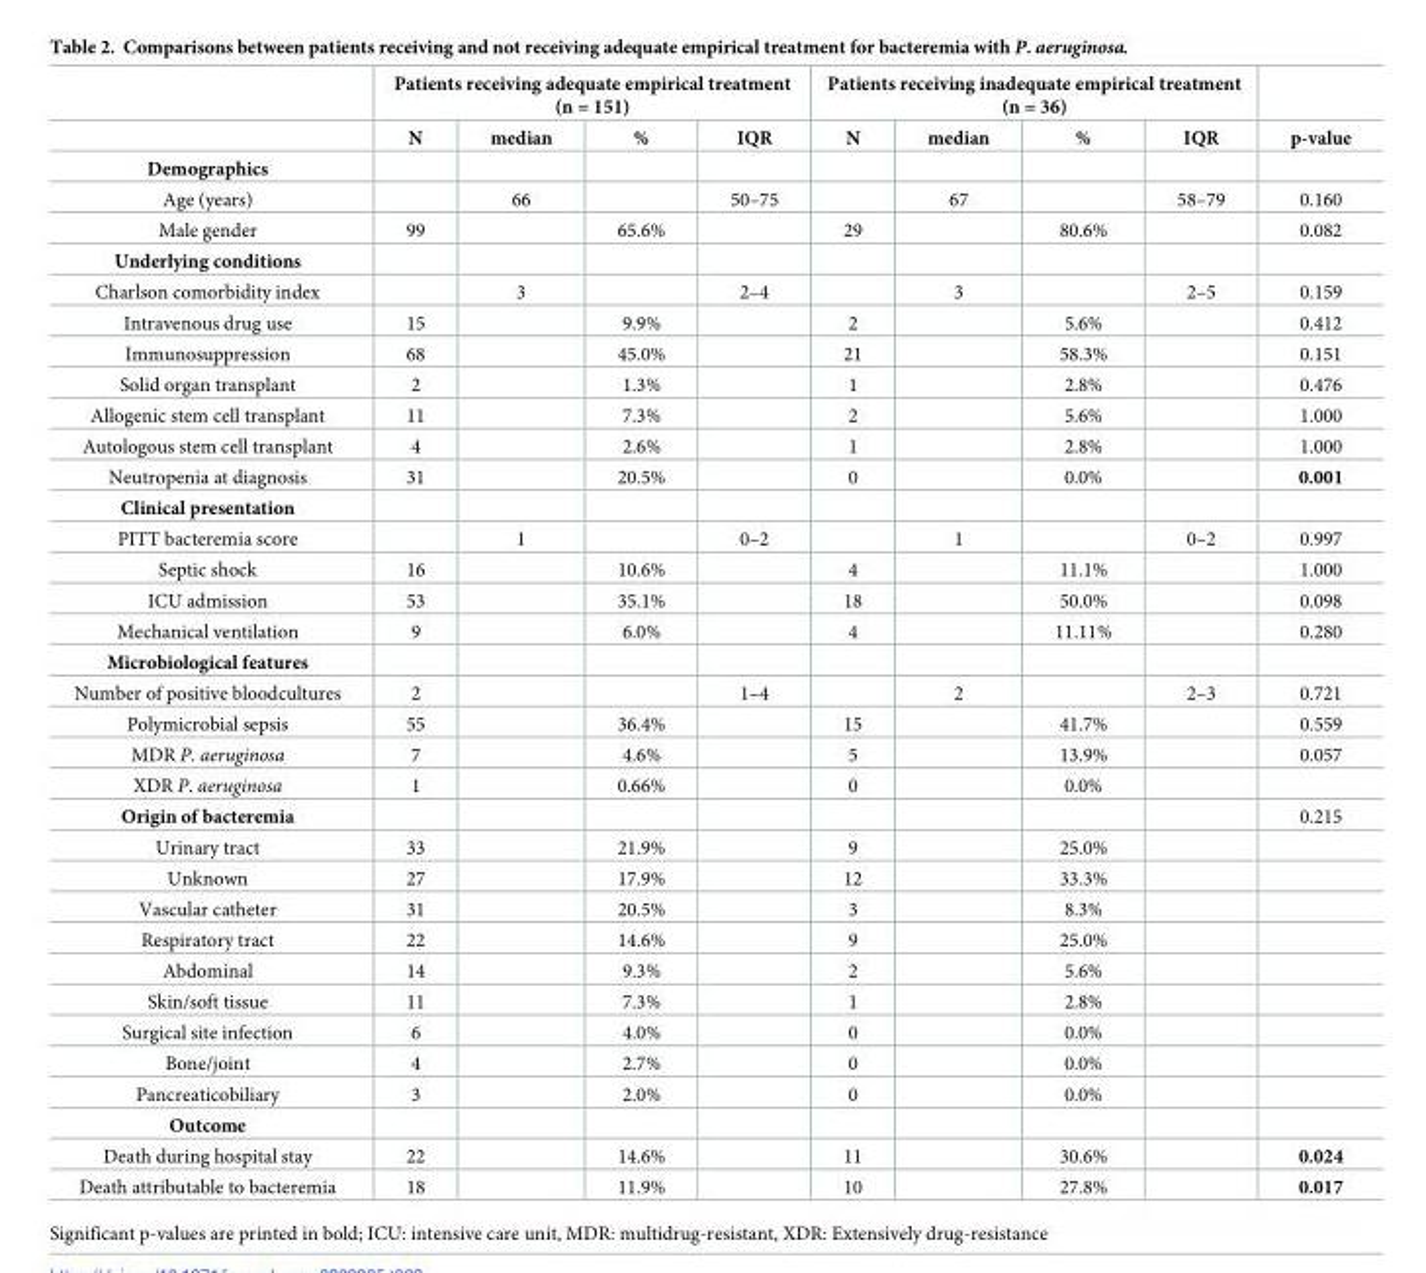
<table><thead><tr><td rowspan="2"></td><td colspan="4">Patients receiving adequate empirical treatment (n = 151)</td><td colspan="4">Patients receiving inadequate empirical treatment (n = 36)</td><td rowspan="2">p-value</td></tr><tr><td>N</td><td>median</td><td>%</td><td>IQR</td><td>N</td><td>median</td><td>%</td><td>IQR</td></tr></thead><tbody><tr><td colspan="10">Demographics</td></tr><tr><td>Age (years)</td><td></td><td>66</td><td></td><td>50–75</td><td></td><td>67</td><td></td><td>58–79</td><td>0.160</td></tr><tr><td>Male gender</td><td>99</td><td></td><td>65.6%</td><td></td><td>29</td><td></td><td>80.6%</td><td></td><td>0.082</td></tr><tr><td colspan="10">Underlying conditions</td></tr><tr><td>Charlson comorbidity index</td><td></td><td>3</td><td></td><td>2–4</td><td></td><td>3</td><td></td><td>2–5</td><td>0.159</td></tr><tr><td>Intravenous drug use</td><td>15</td><td></td><td>9.9%</td><td></td><td>2</td><td></td><td>5.6%</td><td></td><td>0.412</td></tr><tr><td>Immunosuppression</td><td>68</td><td></td><td>45.0%</td><td></td><td>21</td><td></td><td>58.3%</td><td></td><td>0.151</td></tr><tr><td>Solid organ transplant</td><td>2</td><td></td><td>1.3%</td><td></td><td>1</td><td></td><td>2.8%</td><td></td><td>0.476</td></tr><tr><td>Allogenic stem cell transplant</td><td>11</td><td></td><td>7.3%</td><td></td><td>2</td><td></td><td>5.6%</td><td></td><td>1.000</td></tr><tr><td>Autologous stem cell transplant</td><td>4</td><td></td><td>2.6%</td><td></td><td>1</td><td></td><td>2.8%</td><td></td><td>1.000</td></tr><tr><td>Neutropenia at diagnosis</td><td>31</td><td></td><td>20.5%</td><td></td><td>0</td><td></td><td>0.0%</td><td></td><td>0.001</td></tr><tr><td colspan="10">Clinical presentation</td></tr><tr><td>PITT bacteremia score</td><td></td><td>1</td><td></td><td>0–2</td><td></td><td>1</td><td></td><td>0–2</td><td>0.997</td></tr><tr><td>Septic shock</td><td>16</td><td></td><td>10.6%</td><td></td><td>4</td><td></td><td>11.1%</td><td></td><td>1.000</td></tr><tr><td>ICU admission</td><td>53</td><td></td><td>35.1%</td><td></td><td>18</td><td></td><td>50.0%</td><td></td><td>0.098</td></tr><tr><td>Mechanical ventilation</td><td>9</td><td></td><td>6.0%</td><td></td><td>4</td><td></td><td>11.11%</td><td></td><td>0.280</td></tr><tr><td colspan="10">Microbiological features</td></tr><tr><td>Number of positive bloodcultures</td><td>2</td><td></td><td></td><td>1–4</td><td></td><td>2</td><td></td><td>2–3</td><td>0.721</td></tr><tr><td>Polymicrobial sepsis</td><td>55</td><td></td><td>36.4%</td><td></td><td>15</td><td></td><td>41.7%</td><td></td><td>0.559</td></tr><tr><td>MDR P. aeruginosa</td><td>7</td><td></td><td>4.6%</td><td></td><td>5</td><td></td><td>13.9%</td><td></td><td>0.057</td></tr><tr><td>XDR P. aeruginosa</td><td>1</td><td></td><td>0.66%</td><td></td><td>0</td><td></td><td>0.0%</td><td></td><td></td></tr><tr><td>Origin of bacteremia</td><td></td><td></td><td></td><td></td><td></td><td></td><td></td><td></td><td>0.215</td></tr><tr><td>Urinary tract</td><td>33</td><td></td><td>21.9%</td><td></td><td>9</td><td></td><td>25.0%</td><td></td><td></td></tr><tr><td>Unknown</td><td>27</td><td></td><td>17.9%</td><td></td><td>12</td><td></td><td>33.3%</td><td></td><td></td></tr><tr><td>Vascular catheter</td><td>31</td><td></td><td>20.5%</td><td></td><td>3</td><td></td><td>8.3%</td><td></td><td></td></tr><tr><td>Respiratory tract</td><td>22</td><td></td><td>14.6%</td><td></td><td>9</td><td></td><td>25.0%</td><td></td><td></td></tr><tr><td>Abdominal</td><td>14</td><td></td><td>9.3%</td><td></td><td>2</td><td></td><td>5.6%</td><td></td><td></td></tr><tr><td>Skin/soft tissue</td><td>11</td><td></td><td>7.3%</td><td></td><td>1</td><td></td><td>2.8%</td><td></td><td></td></tr><tr><td>Surgical site infection</td><td>6</td><td></td><td>4.0%</td><td></td><td>0</td><td></td><td>0.0%</td><td></td><td></td></tr><tr><td>Bone/joint</td><td>4</td><td></td><td>2.7%</td><td></td><td>0</td><td></td><td>0.0%</td><td></td><td></td></tr><tr><td>Pancreaticobiliary</td><td>3</td><td></td><td>2.0%</td><td></td><td>0</td><td></td><td>0.0%</td><td></td><td></td></tr><tr><td colspan="10">Outcome</td></tr><tr><td>Death during hospital stay</td><td>22</td><td></td><td>14.6%</td><td></td><td>11</td><td></td><td>30.6%</td><td></td><td>0.024</td></tr><tr><td>Death attributable to bacteremia</td><td>18</td><td></td><td>11.9%</td><td></td><td>10</td><td></td><td>27.8%</td><td></td><td>0.017</td></tr></tbody></table>